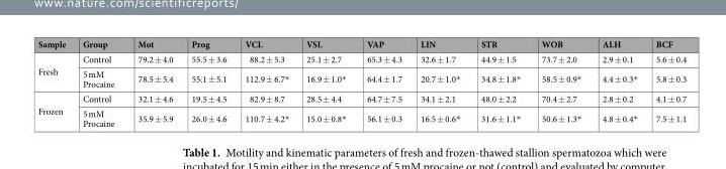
<table><thead><tr><td>Sample</td><td>Group</td><td>Mot</td><td>Prog</td><td>VCL</td><td>VSL</td><td>VAP</td><td>LIN</td><td>STR</td><td>WOB</td><td>ALH</td><td>BCF</td></tr></thead><tbody><tr><td rowspan="2">Fresh</td><td>Control</td><td>79.2 ± 4.0</td><td>55.5 ± 3.6</td><td>88.2 ± 5.3</td><td>25.1 ± 2.7</td><td>65.3 ± 4.3</td><td>32.6 ± 1.7</td><td>44.9 ± 1.5</td><td>73.7 ± 2.0</td><td>2.9 ± 0.1</td><td>5.6 ± 0.4</td></tr><tr><td>5 mM Procaine</td><td>78.5 ± 5.4</td><td>55.1 ± 5.1</td><td>112.9 ± 6.7*</td><td>16.9 ± 1.0*</td><td>64.4 ± 1.7</td><td>20.7 ± 1.0*</td><td>34.8 ± 1.8*</td><td>58.5 ± 0.9*</td><td>4.4 ± 0.3*</td><td>5.8 ± 0.3</td></tr><tr><td rowspan="2">Frozen</td><td>Control</td><td>32.1 ± 4.6</td><td>19.5 ± 4.5</td><td>82.9 ± 8.7</td><td>28.5 ± 4.4</td><td>64.7 ± 7.5</td><td>34.1 ± 2.1</td><td>48.0 ± 2.2</td><td>70.4 ± 2.7</td><td>2.8 ± 0.2</td><td>4.1 ± 0.7</td></tr><tr><td>5 mM Procaine</td><td>35.9 ± 5.9</td><td>26.0 ± 4.6</td><td>110.7 ± 4.2*</td><td>15.0 ± 0.8*</td><td>56.1 ± 0.3</td><td>16.5 ± 0.6*</td><td>31.6 ± 1.1*</td><td>50.6 ± 1.3*</td><td>4.8 ± 0.4*</td><td>7.5 ± 1.1</td></tr></tbody></table>